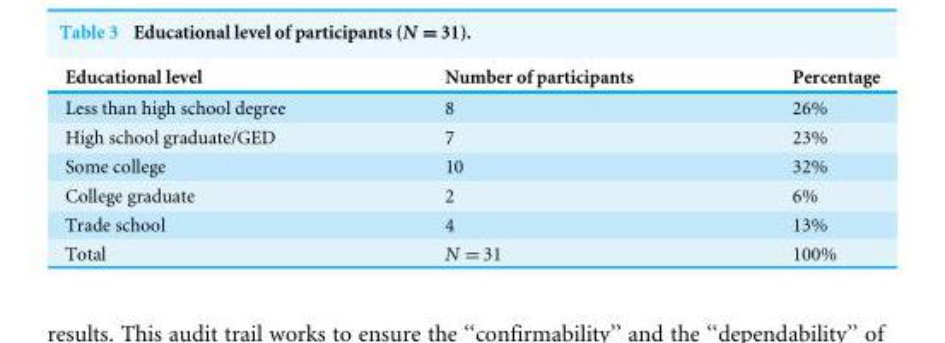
<table><thead><tr><td>Educational level</td><td>Number of participants</td><td>Percentage</td></tr></thead><tbody><tr><td>Less than high school degree</td><td>8</td><td>26%</td></tr><tr><td>High school graduate/GED</td><td>7</td><td>23%</td></tr><tr><td>Some college</td><td>10</td><td>32%</td></tr><tr><td>College graduate</td><td>2</td><td>6%</td></tr><tr><td>Trade school</td><td>4</td><td>13%</td></tr><tr><td>Total</td><td>N = 31</td><td>100%</td></tr></tbody></table>